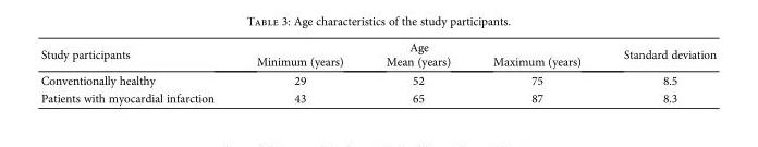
<table><thead><tr><td rowspan="2">Study participants</td><td colspan="3">Age</td><td rowspan="2">Standard deviation</td></tr><tr><td>Minimum (years)</td><td>Mean (years)</td><td>Maximum (years)</td></tr></thead><tbody><tr><td>Conventionally healthy</td><td>29</td><td>52</td><td>75</td><td>8.5</td></tr><tr><td>Patients with myocardial infarction</td><td>43</td><td>65</td><td>87</td><td>8.3</td></tr></tbody></table>